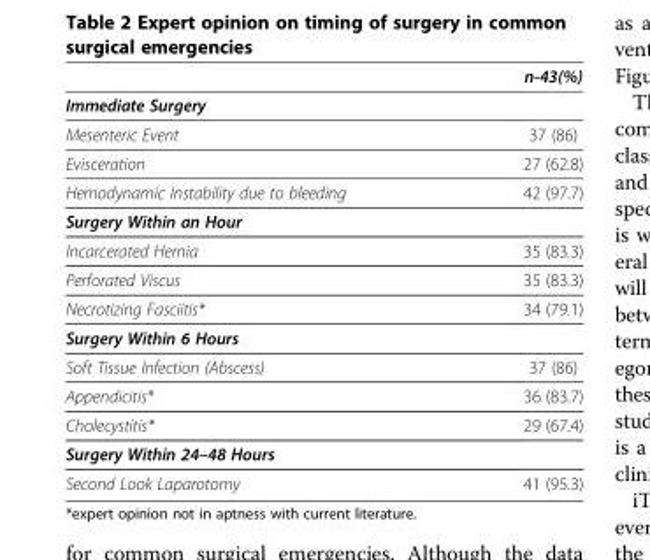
<table><thead><tr><td></td><td>n-43(%)</td></tr></thead><tbody><tr><td colspan="2">Immediate Surgery</td></tr><tr><td>Mesenteric Event</td><td>37 (86)</td></tr><tr><td>Evisceration</td><td>27 (62.8)</td></tr><tr><td>Hemodynamic Instability due to bleeding</td><td>42 (97.7)</td></tr><tr><td colspan="2">Surgery Within an Hour</td></tr><tr><td>Incarcerated Hernia</td><td>35 (83.3)</td></tr><tr><td>Perforated Viscus</td><td>35 (83.3)</td></tr><tr><td>Necrotizing Fasciitis*</td><td>34 (79.1)</td></tr><tr><td colspan="2">Surgery Within 6 Hours</td></tr><tr><td>Soft Tissue Infection (Abscess)</td><td>37 (86)</td></tr><tr><td>Appendicitis*</td><td>36 (83.7)</td></tr><tr><td>Cholecystitis*</td><td>29 (67.4)</td></tr><tr><td colspan="2">Surgery Within 24–48 Hours</td></tr><tr><td>Second Look Laparotomy</td><td>41 (95.3)</td></tr></tbody></table>